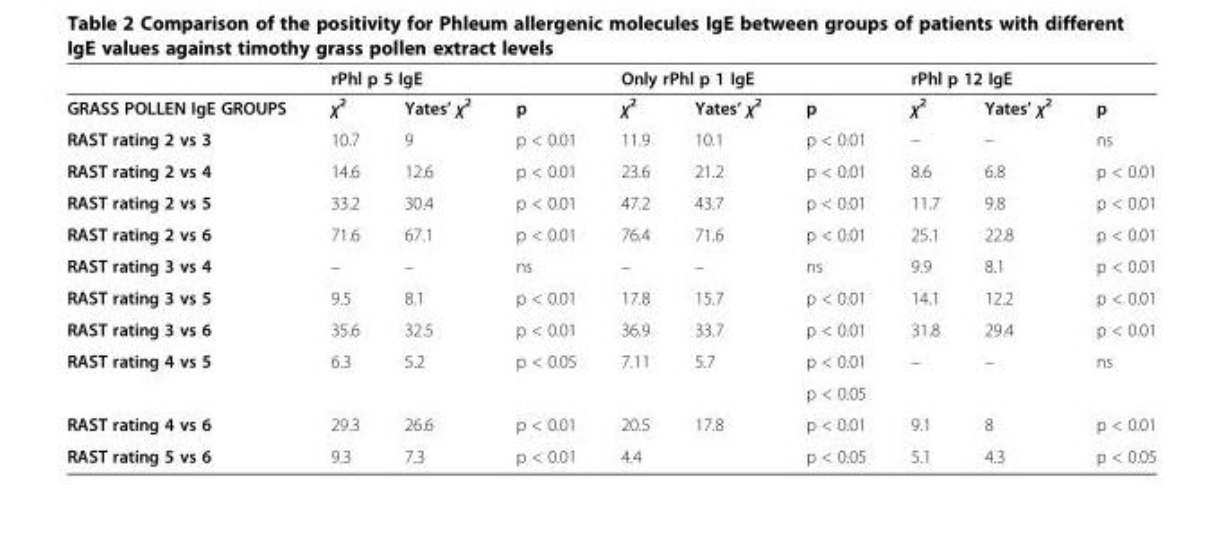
<table><thead><tr><td rowspan="2">GRASS POLLEN IgE GROUPS</td><td colspan="3">rPhl p 5 IgE</td><td colspan="3">Only rPhl p 1 IgE</td><td colspan="3">rPhl p 12 IgE</td></tr><tr><td>χ<sup>2</sup></td><td>Yates’ χ<sup>2</sup></td><td>p</td><td>χ<sup>2</sup></td><td>Yates’ χ<sup>2</sup></td><td>p</td><td>χ<sup>2</sup></td><td>Yates’ χ<sup>2</sup></td><td>p</td></tr></thead><tbody><tr><td>RAST rating 2 vs 3</td><td>10.7</td><td>9</td><td>p &lt; 0.01</td><td>11.9</td><td>10.1</td><td>p &lt; 0.01</td><td>–</td><td>–</td><td>ns</td></tr><tr><td>RAST rating 2 vs 4</td><td>14.6</td><td>12.6</td><td>p &lt; 0.01</td><td>23.6</td><td>21.2</td><td>p &lt; 0.01</td><td>8.6</td><td>6.8</td><td>p &lt; 0.01</td></tr><tr><td>RAST rating 2 vs 5</td><td>33.2</td><td>30.4</td><td>p &lt; 0.01</td><td>47.2</td><td>43.7</td><td>p &lt; 0.01</td><td>11.7</td><td>9.8</td><td>p &lt; 0.01</td></tr><tr><td>RAST rating 2 vs 6</td><td>71.6</td><td>67.1</td><td>p &lt; 0.01</td><td>76.4</td><td>71.6</td><td>p &lt; 0.01</td><td>25.1</td><td>22.8</td><td>p &lt; 0.01</td></tr><tr><td>RAST rating 3 vs 4</td><td>–</td><td>–</td><td>ns</td><td>–</td><td>–</td><td>ns</td><td>9.9</td><td>8.1</td><td>p &lt; 0.01</td></tr><tr><td>RAST rating 3 vs 5</td><td>9.5</td><td>8.1</td><td>p &lt; 0.01</td><td>17.8</td><td>15.7</td><td>p &lt; 0.01</td><td>14.1</td><td>12.2</td><td>p &lt; 0.01</td></tr><tr><td>RAST rating 3 vs 6</td><td>35.6</td><td>32.5</td><td>p &lt; 0.01</td><td>36.9</td><td>33.7</td><td>p &lt; 0.01</td><td>31.8</td><td>29.4</td><td>p &lt; 0.01</td></tr><tr><td rowspan="2">RAST rating 4 vs 5</td><td rowspan="2">6.3</td><td rowspan="2">5.2</td><td rowspan="2">p &lt; 0.05</td><td rowspan="2">7.11</td><td rowspan="2">5.7</td><td>p &lt; 0.01</td><td rowspan="2">–</td><td rowspan="2">–</td><td rowspan="2">ns</td></tr><tr><td>p &lt; 0.05</td></tr><tr><td>RAST rating 4 vs 6</td><td>29.3</td><td>26.6</td><td>p &lt; 0.01</td><td>20.5</td><td>17.8</td><td>p &lt; 0.01</td><td>9.1</td><td>8</td><td>p &lt; 0.01</td></tr><tr><td>RAST rating 5 vs 6</td><td>9.3</td><td>7.3</td><td>p &lt; 0.01</td><td>4.4</td><td></td><td>p &lt; 0.05</td><td>5.1</td><td>4.3</td><td>p &lt; 0.05</td></tr></tbody></table>